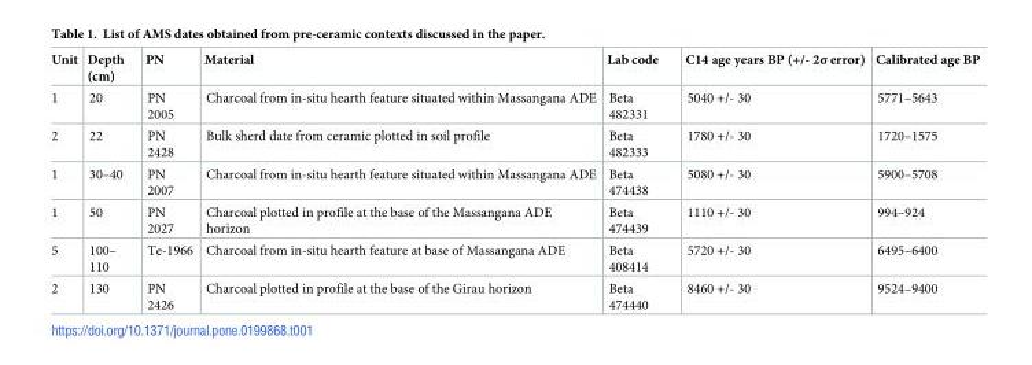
<table><thead><tr><td>Unit</td><td>Depth (cm)</td><td>PN</td><td>Material</td><td>Lab code</td><td>C14 age years BP (+/- 2σ error)</td><td>Calibrated age BP</td></tr></thead><tbody><tr><td>1</td><td>20</td><td>PN 2005</td><td>Charcoal from in-situ hearth feature situated within Massangana ADE</td><td>Beta 482331</td><td>5040 +/- 30</td><td>5771–5643</td></tr><tr><td>2</td><td>22</td><td>PN 2428</td><td>Bulk sherd date from ceramic plotted in soil profile</td><td>Beta 482333</td><td>1780 +/- 30</td><td>1720–1575</td></tr><tr><td>1</td><td>30–40</td><td>PN 2007</td><td>Charcoal from in-situ hearth feature situated within Massangana ADE</td><td>Beta 474438</td><td>5080 +/- 30</td><td>5900–5708</td></tr><tr><td>1</td><td>50</td><td>PN 2027</td><td>Charcoal plotted in profile at the base of the Massangana ADE horizon</td><td>Beta 474439</td><td>1110 +/- 30</td><td>994–924</td></tr><tr><td>5</td><td>100– 110</td><td>Te-1966</td><td>Charcoal from in-situ hearth feature at base of Massangana ADE</td><td>Beta 408414</td><td>5720 +/- 30</td><td>6495–6400</td></tr><tr><td>2</td><td>130</td><td>PN 2426</td><td>Charcoal plotted in profile at the base of the Girau horizon</td><td>Beta 474440</td><td>8460 +/- 30</td><td>9524–9400</td></tr></tbody></table>